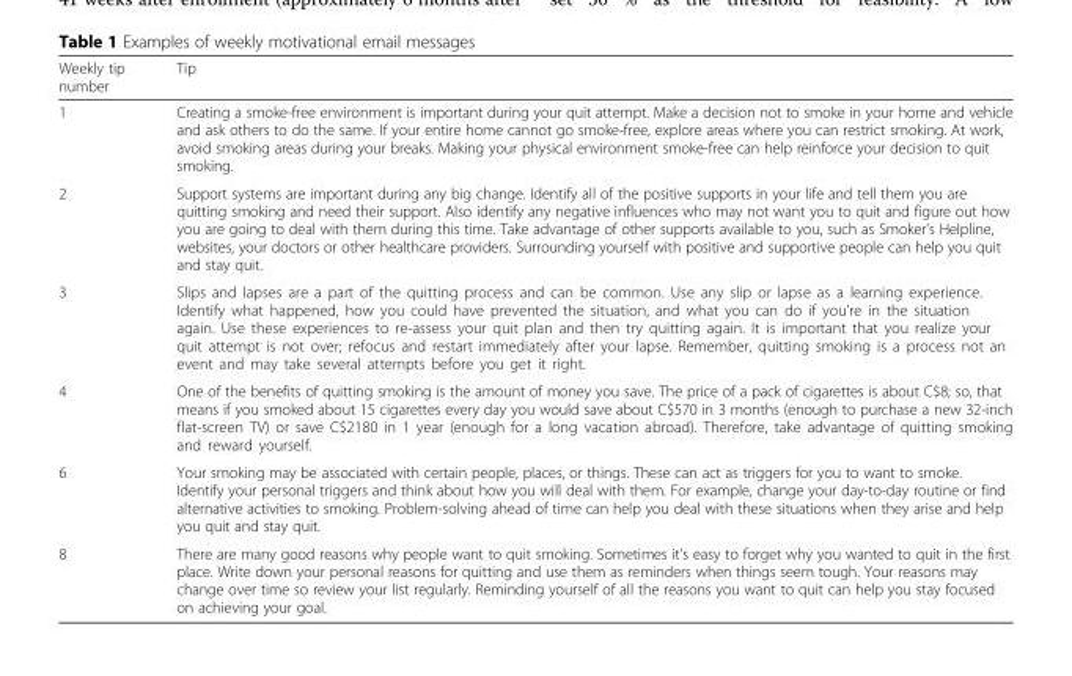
<table><thead><tr><td>Weekly tip number</td><td>Tip</td></tr></thead><tbody><tr><td>1</td><td>Creating a smoke-free environment is important during your quit attempt. Make a decision not to smoke in your home and vehicle and ask others to do the same. If your entire home cannot go smoke-free, explore areas where you can restrict smoking. At work, avoid smoking areas during your breaks. Making your physical environment smoke-free can help reinforce your decision to quit smoking.</td></tr><tr><td>2</td><td>Support systems are important during any big change. Identify all of the positive supports in your life and tell them you are quitting smoking and need their support. Also identify any negative influences who may not want you to quit and figure out how you are going to deal with them during this time. Take advantage of other supports available to you, such as Smoker&#x27;s Helpline, websites, your doctors or other healthcare providers. Surrounding yourself with positive and supportive people can help you quit and stay quit.</td></tr><tr><td>3</td><td>Slips and lapses are a part of the quitting process and can be common. Use any slip or lapse as a learning experience. Identify what happened, how you could have prevented the situation, and what you can do if you’re in the situation again. Use these experiences to re-assess your quit plan and then try quitting again. It is important that you realize your quit attempt is not over; refocus and restart immediately after your lapse. Remember, quitting smoking is a process not an event and may take several attempts before you get it right.</td></tr><tr><td>4</td><td>One of the benefits of quitting smoking is the amount of money you save. The price of a pack of cigarettes is about C$8; so, that means if you smoked about 15 cigarettes every day you would save about C$570 in 3 months (enough to purchase a new 32-inch flat-screen TV) or save C$2180 in 1 year (enough for a long vacation abroad). Therefore, take advantage of quitting smoking and reward yourself.</td></tr><tr><td>6</td><td>Your smoking may be associated with certain people, places, or things. These can act as triggers for you to want to smoke. Identify your personal triggers and think about how you will deal with them. For example, change your day-to-day routine or find alternative activities to smoking. Problem-solving ahead of time can help you deal with these situations when they arise and help you quit and stay quit.</td></tr><tr><td>8</td><td>There are many good reasons why people want to quit smoking. Sometimes it’s easy to forget why you wanted to quit in the first place. Write down your personal reasons for quitting and use them as reminders when things seem tough. Your reasons may change over time so review your list regularly. Reminding yourself of all the reasons you want to quit can help you stay focused on achieving your goal.</td></tr></tbody></table>